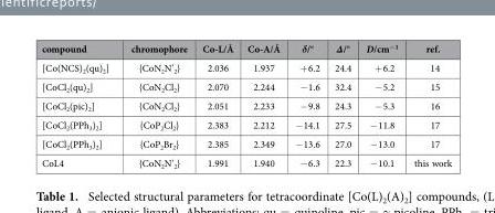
<table><thead><tr><td>compound</td><td>chromophore</td><td>Co-L/Å</td><td>Co-A/Å</td><td>δ/°</td><td>Δ/°</td><td>D/cm<sup>−1</sup></td><td>ref.</td></tr></thead><tbody><tr><td>[Co(NCS)<sub>2</sub>(qu)<sub>2</sub>]</td><td>{CoN<sub>2</sub>N’<sub>2</sub>}</td><td>2.036</td><td>1.937</td><td>+ 6.2</td><td>24.4</td><td>+ 6.2</td><td>14</td></tr><tr><td>[CoCl<sub>2</sub>(qu)<sub>2</sub>]</td><td>{CoN<sub>2</sub>Cl<sub>2</sub>}</td><td>2.070</td><td>2.244</td><td>− 1.6</td><td>32.4</td><td>− 5.2</td><td>15</td></tr><tr><td>[CoCl<sub>2</sub>(pic)<sub>2</sub>]</td><td>{CoN<sub>2</sub>Cl<sub>2</sub>}</td><td>2.051</td><td>2.233</td><td>− 9.8</td><td>24.3</td><td>− 5.3</td><td>16</td></tr><tr><td>[CoCl<sub>2</sub>(PPh<sub>3</sub>)<sub>2</sub>]</td><td>{CoP<sub>2</sub>Cl<sub>2</sub>}</td><td>2.383</td><td>2.212</td><td>− 14.1</td><td>27.5</td><td>− 11.8</td><td>17</td></tr><tr><td>[CoCl<sub>2</sub>(PPh<sub>3</sub>)<sub>2</sub>]</td><td>{CoP<sub>2</sub>Br<sub>2</sub>}</td><td>2.385</td><td>2.349</td><td>− 13.6</td><td>27.0</td><td>− 13.0</td><td>17</td></tr><tr><td>CoL4</td><td>{CoN<sub>2</sub>N’<sub>2</sub>}</td><td>1.991</td><td>1.940</td><td>− 6.3</td><td>22.3</td><td>− 10.1</td><td>this work</td></tr></tbody></table>